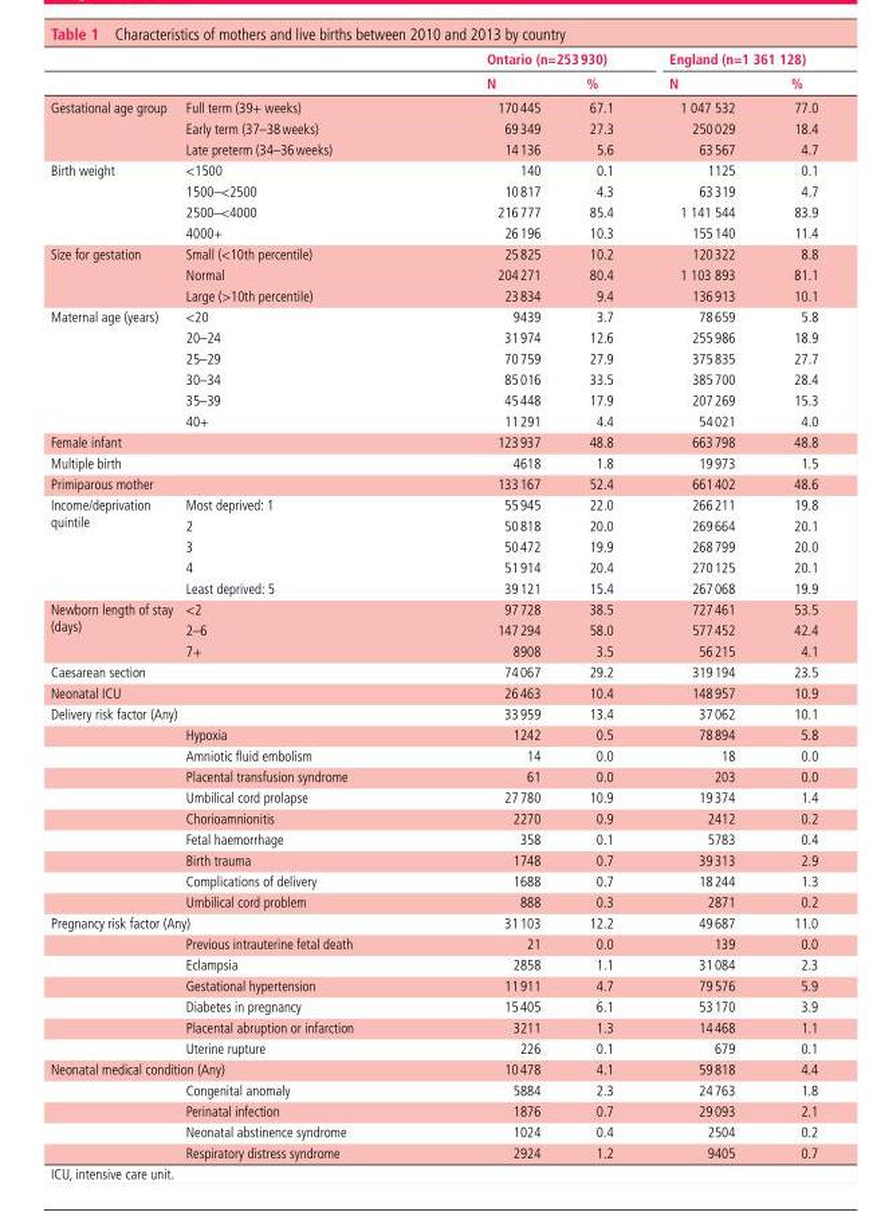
<table><thead><tr><td rowspan="2"></td><td rowspan="2"></td><td colspan="2">Ontario (n=253 930)</td><td colspan="2">England (n=1 361 128)</td></tr><tr><td>N</td><td>%</td><td>N</td><td>%</td></tr></thead><tbody><tr><td rowspan="3">Gestational age group</td><td>Full term (39+ weeks)</td><td>170 445</td><td>67.1</td><td>1 047 532</td><td>77.0</td></tr><tr><td>Early term (37–38 weeks)</td><td>69 349</td><td>27.3</td><td>250 029</td><td>18.4</td></tr><tr><td>Late preterm (34–36 weeks)</td><td>14 136</td><td>5.6</td><td>63 567</td><td>4.7</td></tr><tr><td rowspan="4">Birth weight</td><td>&lt;1500</td><td>140</td><td>0.1</td><td>1125</td><td>0.1</td></tr><tr><td>1500–&lt;2500</td><td>10 817</td><td>4.3</td><td>63 319</td><td>4.7</td></tr><tr><td>2500–&lt;4000</td><td>216 777</td><td>85.4</td><td>1 141 544</td><td>83.9</td></tr><tr><td>4000+</td><td>26 196</td><td>10.3</td><td>155 140</td><td>11.4</td></tr><tr><td rowspan="3">Size for gestation</td><td>Small (&lt;10th percentile)</td><td>25 825</td><td>10.2</td><td>120 322</td><td>8.8</td></tr><tr><td>Normal</td><td>204 271</td><td>80.4</td><td>1 103 893</td><td>81.1</td></tr><tr><td>Large (&gt;10th percentile)</td><td>23 834</td><td>9.4</td><td>136 913</td><td>10.1</td></tr><tr><td rowspan="6">Maternal age (years)</td><td>&lt;20</td><td>9439</td><td>3.7</td><td>78 659</td><td>5.8</td></tr><tr><td>20–24</td><td>31 974</td><td>12.6</td><td>255 986</td><td>18.9</td></tr><tr><td>25–29</td><td>70 759</td><td>27.9</td><td>375 835</td><td>27.7</td></tr><tr><td>30–34</td><td>85 016</td><td>33.5</td><td>385 700</td><td>28.4</td></tr><tr><td>35–39</td><td>45 448</td><td>17.9</td><td>207 269</td><td>15.3</td></tr><tr><td>40+</td><td>11 291</td><td>4.4</td><td>54 021</td><td>4.0</td></tr><tr><td colspan="2">Female infant</td><td>123 937</td><td>48.8</td><td>663 798</td><td>48.8</td></tr><tr><td colspan="2">Multiple birth</td><td>4618</td><td>1.8</td><td>19 973</td><td>1.5</td></tr><tr><td colspan="2">Primiparous mother</td><td>133 167</td><td>52.4</td><td>661 402</td><td>48.6</td></tr><tr><td rowspan="5">Income/deprivation quintile</td><td>Most deprived: 1</td><td>55 945</td><td>22.0</td><td>266 211</td><td>19.8</td></tr><tr><td>2</td><td>50 818</td><td>20.0</td><td>269 664</td><td>20.1</td></tr><tr><td>3</td><td>50 472</td><td>19.9</td><td>268 799</td><td>20.0</td></tr><tr><td>4</td><td>51 914</td><td>20.4</td><td>270 125</td><td>20.1</td></tr><tr><td>Least deprived: 5</td><td>39 121</td><td>15.4</td><td>267 068</td><td>19.9</td></tr><tr><td rowspan="3">Newborn length of stay (days)</td><td>&lt;2</td><td>97 728</td><td>38.5</td><td>727 461</td><td>53.5</td></tr><tr><td>2–6</td><td>147 294</td><td>58.0</td><td>577 452</td><td>42.4</td></tr><tr><td>7+</td><td>8908</td><td>3.5</td><td>56 215</td><td>4.1</td></tr><tr><td colspan="2">Caesarean section</td><td>74 067</td><td>29.2</td><td>319 194</td><td>23.5</td></tr><tr><td colspan="2">Neonatal ICU</td><td>26 463</td><td>10.4</td><td>148 957</td><td>10.9</td></tr><tr><td colspan="2">Delivery risk factor (Any)</td><td>33 959</td><td>13.4</td><td>37 062</td><td>10.1</td></tr><tr><td></td><td>Hypoxia</td><td>1242</td><td>0.5</td><td>78 894</td><td>5.8</td></tr><tr><td></td><td>Amniotic fluid embolism</td><td>14</td><td>0.0</td><td>18</td><td>0.0</td></tr><tr><td></td><td>Placental transfusion syndrome</td><td>61</td><td>0.0</td><td>203</td><td>0.0</td></tr><tr><td></td><td>Umbilical cord prolapse</td><td>27 780</td><td>10.9</td><td>19 374</td><td>1.4</td></tr><tr><td></td><td>Chorioamnionitis</td><td>2270</td><td>0.9</td><td>2412</td><td>0.2</td></tr><tr><td></td><td>Fetal haemorrhage</td><td>358</td><td>0.1</td><td>5783</td><td>0.4</td></tr><tr><td></td><td>Birth trauma</td><td>1748</td><td>0.7</td><td>39 313</td><td>2.9</td></tr><tr><td></td><td>Complications of delivery</td><td>1688</td><td>0.7</td><td>18 244</td><td>1.3</td></tr><tr><td></td><td>Umbilical cord problem</td><td>888</td><td>0.3</td><td>2871</td><td>0.2</td></tr><tr><td colspan="2">Pregnancy risk factor (Any)</td><td>31 103</td><td>12.2</td><td>49 687</td><td>11.0</td></tr><tr><td></td><td>Previous intrauterine fetal death</td><td>21</td><td>0.0</td><td>139</td><td>0.0</td></tr><tr><td></td><td>Eclampsia</td><td>2858</td><td>1.1</td><td>31 084</td><td>2.3</td></tr><tr><td></td><td>Gestational hypertension</td><td>11 911</td><td>4.7</td><td>79 576</td><td>5.9</td></tr><tr><td></td><td>Diabetes in pregnancy</td><td>15 405</td><td>6.1</td><td>53 170</td><td>3.9</td></tr><tr><td></td><td>Placental abruption or infarction</td><td>3211</td><td>1.3</td><td>14 468</td><td>1.1</td></tr><tr><td></td><td>Uterine rupture</td><td>226</td><td>0.1</td><td>679</td><td>0.1</td></tr><tr><td colspan="2">Neonatal medical condition (Any)</td><td>10 478</td><td>4.1</td><td>59 818</td><td>4.4</td></tr><tr><td></td><td>Congenital anomaly</td><td>5884</td><td>2.3</td><td>24 763</td><td>1.8</td></tr><tr><td></td><td>Perinatal infection</td><td>1876</td><td>0.7</td><td>29 093</td><td>2.1</td></tr><tr><td></td><td>Neonatal abstinence syndrome</td><td>1024</td><td>0.4</td><td>2504</td><td>0.2</td></tr><tr><td></td><td>Respiratory distress syndrome</td><td>2924</td><td>1.2</td><td>9405</td><td>0.7</td></tr></tbody></table>